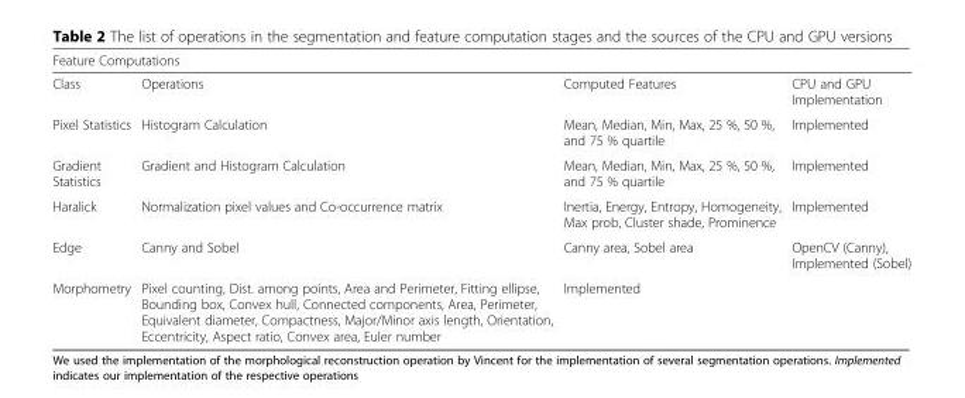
<table><thead><tr><td colspan="4">Feature Computations</td></tr><tr><td>Class</td><td>Operations</td><td>Computed Features</td><td>CPU and GPU Implementation</td></tr></thead><tbody><tr><td>Pixel Statistics</td><td>Histogram Calculation</td><td>Mean, Median, Min, Max, 25 %, 50 %, and 75 % quartile</td><td>Implemented</td></tr><tr><td>Gradient Statistics</td><td>Gradient and Histogram Calculation</td><td>Mean, Median, Min, Max, 25 %, 50 %, and 75 % quartile</td><td>Implemented</td></tr><tr><td>Haralick</td><td>Normalization pixel values and Co-occurrence matrix</td><td>Inertia, Energy, Entropy, Homogeneity, Max prob, Cluster shade, Prominence</td><td>Implemented</td></tr><tr><td>Edge</td><td>Canny and Sobel</td><td>Canny area, Sobel area</td><td>OpenCV (Canny), Implemented (Sobel)</td></tr><tr><td>Morphometry</td><td>Pixel counting, Dist. among points, Area and Perimeter, Fitting ellipse, Bounding box, Convex hull, Connected components, Area, Perimeter, Equivalent diameter, Compactness, Major/Minor axis length, Orientation, Eccentricity, Aspect ratio, Convex area, Euler number</td><td colspan="2">Implemented</td></tr></tbody></table>